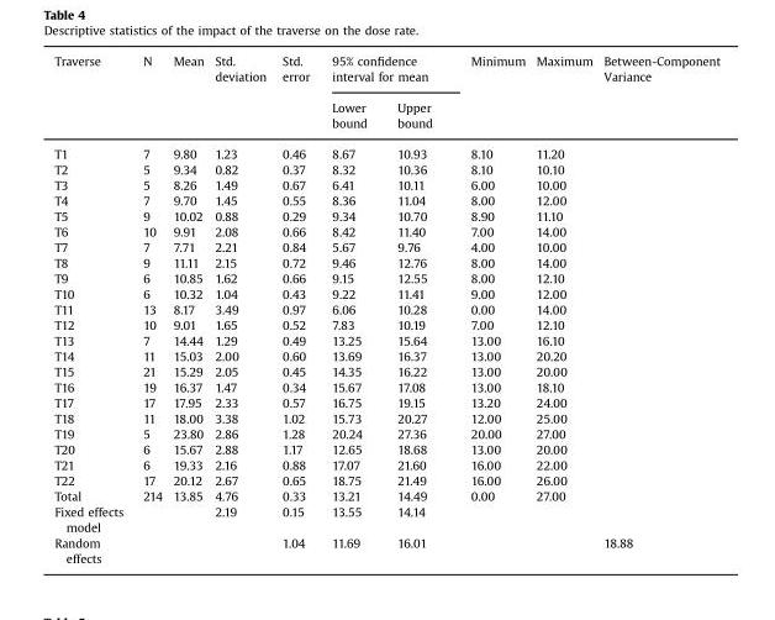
<table><thead><tr><td rowspan="2">Traverse</td><td rowspan="2">N</td><td rowspan="2">Mean</td><td rowspan="2">Std. deviation</td><td rowspan="2">Std. error</td><td colspan="2">95% confidence interval for mean</td><td rowspan="2">Minimum</td><td rowspan="2">Maximum</td><td rowspan="2">Between-Component Variance</td></tr><tr><td>Lower bound</td><td>Upper bound</td></tr></thead><tbody><tr><td>T1</td><td>7</td><td>9.80</td><td>1.23</td><td>0.46</td><td>8.67</td><td>10.93</td><td>8.10</td><td>11.20</td><td></td></tr><tr><td>T2</td><td>5</td><td>9.34</td><td>0.82</td><td>0.37</td><td>8.32</td><td>10.36</td><td>8.10</td><td>10.10</td><td></td></tr><tr><td>T3</td><td>5</td><td>8.26</td><td>1.49</td><td>0.67</td><td>6.41</td><td>10.11</td><td>6.00</td><td>10.00</td><td></td></tr><tr><td>T4</td><td>7</td><td>9.70</td><td>1.45</td><td>0.55</td><td>8.36</td><td>11.04</td><td>8.00</td><td>12.00</td><td></td></tr><tr><td>T5</td><td>9</td><td>10.02</td><td>0.88</td><td>0.29</td><td>9.34</td><td>10.70</td><td>8.90</td><td>11.10</td><td></td></tr><tr><td>T6</td><td>10</td><td>9.91</td><td>2.08</td><td>0.66</td><td>8.42</td><td>11.40</td><td>7.00</td><td>14.00</td><td></td></tr><tr><td>T7</td><td>7</td><td>7.71</td><td>2.21</td><td>0.84</td><td>5.67</td><td>9.76</td><td>4.00</td><td>10.00</td><td></td></tr><tr><td>T8</td><td>9</td><td>11.11</td><td>2.15</td><td>0.72</td><td>9.46</td><td>12.76</td><td>8.00</td><td>14.00</td><td></td></tr><tr><td>T9</td><td>6</td><td>10.85</td><td>1.62</td><td>0.66</td><td>9.15</td><td>12.55</td><td>8.00</td><td>12.10</td><td></td></tr><tr><td>T10</td><td>6</td><td>10.32</td><td>1.04</td><td>0.43</td><td>9.22</td><td>11.41</td><td>9.00</td><td>12.00</td><td></td></tr><tr><td>T11</td><td>13</td><td>8.17</td><td>3.49</td><td>0.97</td><td>6.06</td><td>10.28</td><td>0.00</td><td>14.00</td><td></td></tr><tr><td>T12</td><td>10</td><td>9.01</td><td>1.65</td><td>0.52</td><td>7.83</td><td>10.19</td><td>7.00</td><td>12.10</td><td></td></tr><tr><td>T13</td><td>7</td><td>14.44</td><td>1.29</td><td>0.49</td><td>13.25</td><td>15.64</td><td>13.00</td><td>16.10</td><td></td></tr><tr><td>T14</td><td>11</td><td>15.03</td><td>2.00</td><td>0.60</td><td>13.69</td><td>16.37</td><td>13.00</td><td>20.20</td><td></td></tr><tr><td>T15</td><td>21</td><td>15.29</td><td>2.05</td><td>0.45</td><td>14.35</td><td>16.22</td><td>13.00</td><td>20.00</td><td></td></tr><tr><td>T16</td><td>19</td><td>16.37</td><td>1.47</td><td>0.34</td><td>15.67</td><td>17.08</td><td>13.00</td><td>18.10</td><td></td></tr><tr><td>T17</td><td>17</td><td>17.95</td><td>2.33</td><td>0.57</td><td>16.75</td><td>19.15</td><td>13.20</td><td>24.00</td><td></td></tr><tr><td>T18</td><td>11</td><td>18.00</td><td>3.38</td><td>1.02</td><td>15.73</td><td>20.27</td><td>12.00</td><td>25.00</td><td></td></tr><tr><td>T19</td><td>5</td><td>23.80</td><td>2.86</td><td>1.28</td><td>20.24</td><td>27.36</td><td>20.00</td><td>27.00</td><td></td></tr><tr><td>T20</td><td>6</td><td>15.67</td><td>2.88</td><td>1.17</td><td>12.65</td><td>18.68</td><td>13.00</td><td>20.00</td><td></td></tr><tr><td>T21</td><td>6</td><td>19.33</td><td>2.16</td><td>0.88</td><td>17.07</td><td>21.60</td><td>16.00</td><td>22.00</td><td></td></tr><tr><td>T22</td><td>17</td><td>20.12</td><td>2.67</td><td>0.65</td><td>18.75</td><td>21.49</td><td>16.00</td><td>26.00</td><td></td></tr><tr><td>Total</td><td>214</td><td>13.85</td><td>4.76</td><td>0.33</td><td>13.21</td><td>14.49</td><td>0.00</td><td>27.00</td><td></td></tr><tr><td>Fixed effects model</td><td></td><td></td><td>2.19</td><td>0.15</td><td>13.55</td><td>14.14</td><td></td><td></td><td></td></tr><tr><td>Random effects</td><td></td><td></td><td></td><td>1.04</td><td>11.69</td><td>16.01</td><td></td><td></td><td>18.88</td></tr></tbody></table>